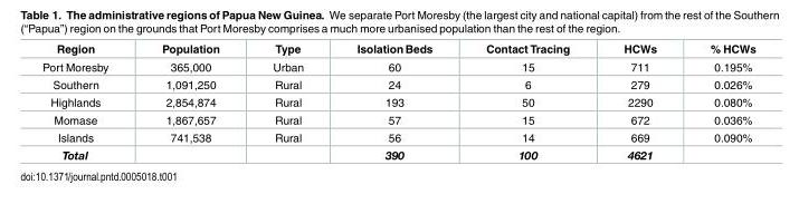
<table><thead><tr><td>Region</td><td>Population</td><td>Type</td><td>Isolation Beds</td><td>Contact Tracing</td><td>HCWs</td><td>% HCWs</td></tr></thead><tbody><tr><td>Port Moresby</td><td>365,000</td><td>Urban</td><td>60</td><td>15</td><td>711</td><td>0.195%</td></tr><tr><td>Southern</td><td>1,091,250</td><td>Rural</td><td>24</td><td>6</td><td>279</td><td>0.026%</td></tr><tr><td>Highlands</td><td>2,854,874</td><td>Rural</td><td>193</td><td>50</td><td>2290</td><td>0.080%</td></tr><tr><td>Momase</td><td>1,867,657</td><td>Rural</td><td>57</td><td>15</td><td>672</td><td>0.036%</td></tr><tr><td>Islands</td><td>741,538</td><td>Rural</td><td>56</td><td>14</td><td>669</td><td>0.090%</td></tr><tr><td>Total</td><td></td><td></td><td>390</td><td>100</td><td>4621</td><td></td></tr></tbody></table>